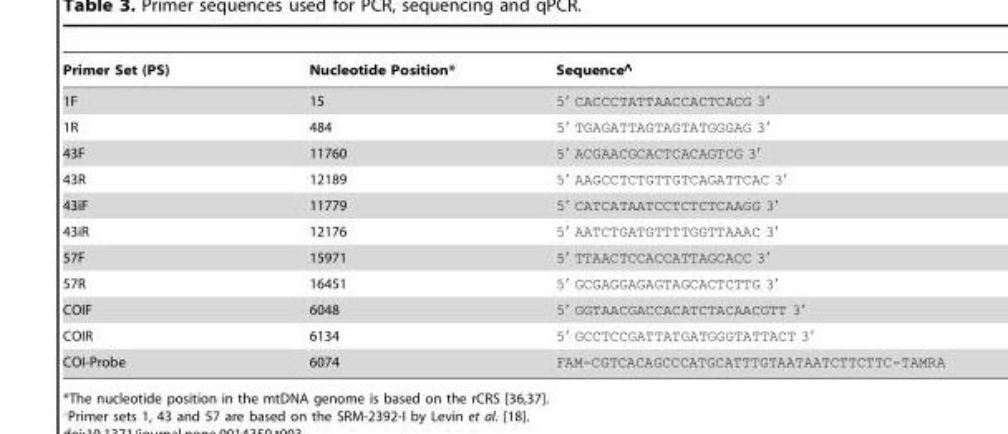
<table><thead><tr><td>Primer Set (PS)</td><td>Nucleotide Position*</td><td>Sequence‘</td></tr></thead><tbody><tr><td>1F</td><td>15</td><td>5′ CACCCTATTAACCACTCACG 3′</td></tr><tr><td>1R</td><td>484</td><td>5′ TGAGATTAGTAGTATGGGAG 3′</td></tr><tr><td>43F</td><td>11760</td><td>5′ ACGAACGCACTCACAGTCG 3′</td></tr><tr><td>43R</td><td>12189</td><td>5′ AAGCCTCTGTTGTCAGATTCAC 3′</td></tr><tr><td>43iF</td><td>11779</td><td>5′ CATCATAATCCTCTCTCAAGG 3′</td></tr><tr><td>43iR</td><td>12176</td><td>5′ AATCTGATGTTTTGGTTAAAC 3′</td></tr><tr><td>57F</td><td>15971</td><td>5′ TTAACTCCACCATTAGCACC 3′</td></tr><tr><td>57R</td><td>16451</td><td>5′ GCGAGGAGAGTAGCACTCTTG 3′</td></tr><tr><td>COIF</td><td>6048</td><td>5′ GGTAACGACCACATCTACAACGTT 3′</td></tr><tr><td>COIR</td><td>6134</td><td>5′ GCCTCCGATTATGATGGGTATTACT 3′</td></tr><tr><td>COI-Probe</td><td>6074</td><td>FAM-CGTCACAGCCCATGCATTTGTAATAATCTTCTTC-TAMRA</td></tr></tbody></table>